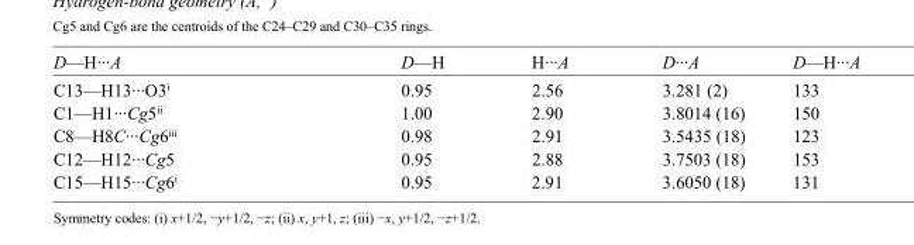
<table><tbody><tr><td>D—H···A</td><td>D—H</td><td>H···A</td><td>D···A</td><td>D—H···A</td></tr><tr><td>C13—H13···O3<sup>i</sup></td><td>0.95</td><td>2.56</td><td>3.281 (2)</td><td>133</td></tr><tr><td>C1—H1···Cg5<sup>ii</sup></td><td>1.00</td><td>2.90</td><td>3.8014 (16)</td><td>150</td></tr><tr><td>C8—H8C···Cg6<sup>iii</sup></td><td>0.98</td><td>2.91</td><td>3.5435 (18)</td><td>123</td></tr><tr><td>C12—H12···Cg5</td><td>0.95</td><td>2.88</td><td>3.7503 (18)</td><td>153</td></tr><tr><td>C15—H15···Cg6<sup>i</sup></td><td>0.95</td><td>2.91</td><td>3.6050 (18)</td><td>131</td></tr></tbody></table>